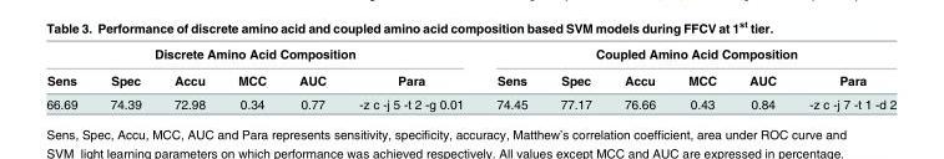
<table><thead><tr><td colspan="6">Discrete Amino Acid Composition</td><td colspan="6">Coupled Amino Acid Composition</td></tr><tr><td>Sens</td><td>Spec</td><td>Accu</td><td>MCC</td><td>AUC</td><td>Para</td><td>Sens</td><td>Spec</td><td>Accu</td><td>MCC</td><td>AUC</td><td>Para</td></tr></thead><tbody><tr><td>66.69</td><td>74.39</td><td>72.98</td><td>0.34</td><td>0.77</td><td>-z c -j 5 -t 2 -g 0.01</td><td>74.45</td><td>77.17</td><td>76.66</td><td>0.43</td><td>0.84</td><td>-z c -j 7 -t 1 -d 2</td></tr></tbody></table>